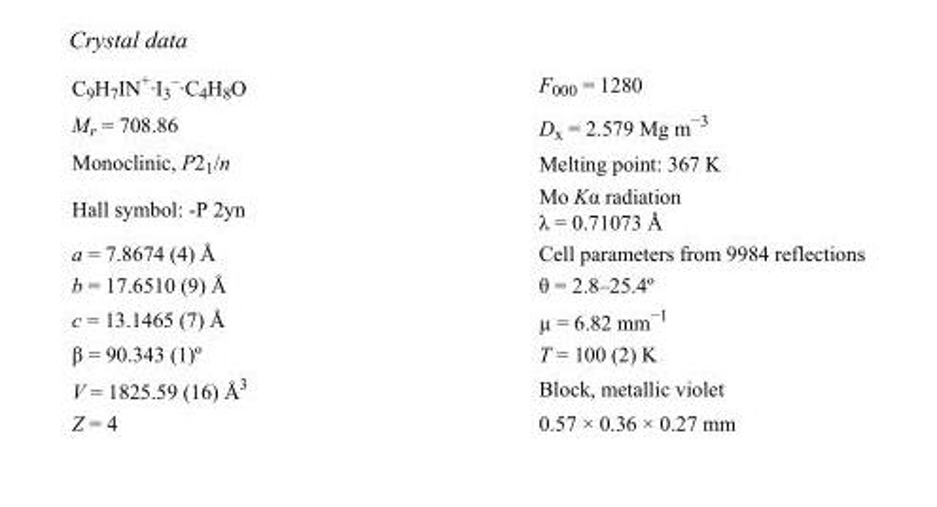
<table><tbody><tr><td>C<sub>9</sub>H<sub>7</sub>IN<sup>+</sup>·I<sub>3</sub> <sup>–</sup>·C<sub>4</sub>H<sub>8</sub>O</td><td>F000 = 1280</td></tr><tr><td>M<sub>r</sub> = 708.86</td><td>D<sub>x</sub> = 2.579 Mg m<sup>−3</sup></td></tr><tr><td>Monoclinic, P2<sub>1</sub>/n</td><td>Melting point: 367 K</td></tr><tr><td>Hall symbol: -P 2yn</td><td>Mo Kα radiation λ = 0.71073 Å</td></tr><tr><td>a = 7.8674 (4) Å</td><td>Cell parameters from 9984 reflections</td></tr><tr><td>b = 17.6510 (9) Å</td><td>θ = 2.8–25.4º</td></tr><tr><td>c = 13.1465 (7) Å</td><td>µ = 6.82 mm<sup>−1</sup></td></tr><tr><td>β = 90.343 (1)º</td><td>T = 100 (2) K</td></tr><tr><td>V = 1825.59 (16) Å<sup>3</sup></td><td>Block, metallic violet</td></tr><tr><td>Z = 4</td><td>0.57 × 0.36 × 0.27 mm</td></tr></tbody></table>